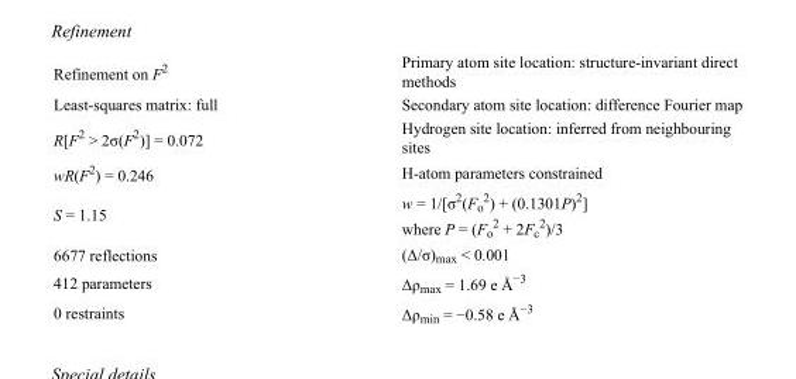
<table><tbody><tr><td>Refinement on F<sup>2</sup></td><td>Primary atom site location: structure-invariant direct methods</td></tr><tr><td>Least-squares matrix: full</td><td>Secondary atom site location: difference Fourier map</td></tr><tr><td>R[F<sup>2</sup> &gt; 2σ(F<sup>2</sup>)] = 0.072</td><td>Hydrogen site location: inferred from neighbouring sites</td></tr><tr><td>wR(F<sup>2</sup>) = 0.246</td><td>H-atom parameters constrained</td></tr><tr><td>S = 1.15</td><td>w = 1/[σ<sup>2</sup>(F<sub>o</sub> <sup>2</sup>) + (0.1301P)<sup>2</sup>] where P = (F<sub>o</sub> <sup>2</sup> + 2F<sub>c</sub> <sup>2</sup>)/3</td></tr><tr><td>6677 reflections</td><td>(Δ/σ)<sub>max</sub> &lt; 0.001</td></tr><tr><td>412 parameters</td><td>Δρ<sub>max</sub> = 1.69 e Å<sup>−3</sup></td></tr><tr><td>0 restraints</td><td>Δρ<sub>min</sub> = −0.58 e Å<sup>−3</sup></td></tr></tbody></table>